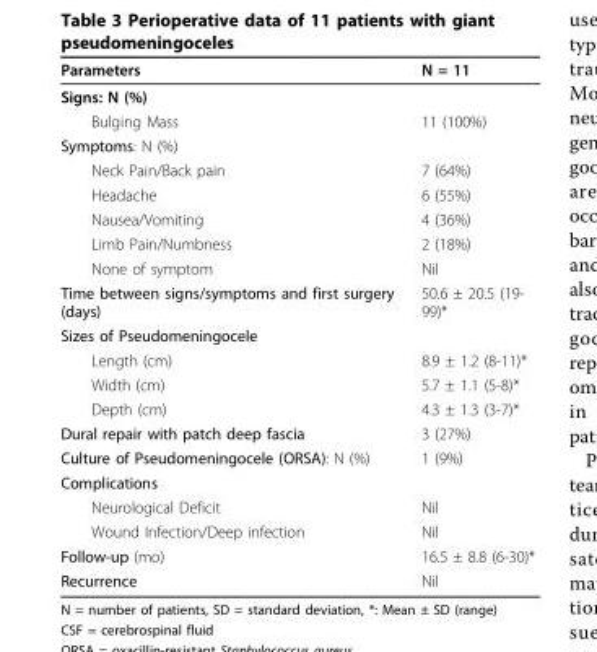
<table><thead><tr><td>Parameters</td><td>N = 11</td></tr></thead><tbody><tr><td colspan="2">Signs: N (%)</td></tr><tr><td>Bulging Mass</td><td>11 (100%)</td></tr><tr><td colspan="2">Symptoms: N (%)</td></tr><tr><td>Neck Pain/Back pain</td><td>7 (64%)</td></tr><tr><td>Headache</td><td>6 (55%)</td></tr><tr><td>Nausea/Vomiting</td><td>4 (36%)</td></tr><tr><td>Limb Pain/Numbness</td><td>2 (18%)</td></tr><tr><td>None of symptom</td><td>Nil</td></tr><tr><td>Time between signs/symptoms and first surgery (days)</td><td>50.6 ± 20.5 (19- 99)*</td></tr><tr><td colspan="2">Sizes of Pseudomeningocele</td></tr><tr><td>Length (cm)</td><td>8.9 ± 1.2 (8-11)*</td></tr><tr><td>Width (cm)</td><td>5.7 ± 1.1 (5-8)*</td></tr><tr><td>Depth (cm)</td><td>4.3 ± 1.3 (3-7)*</td></tr><tr><td>Dural repair with patch deep fascia</td><td>3 (27%)</td></tr><tr><td>Culture of Pseudomeningocele (ORSA): N (%)</td><td>1 (9%)</td></tr><tr><td colspan="2">Complications</td></tr><tr><td>Neurological Deficit</td><td>Nil</td></tr><tr><td>Wound Infection/Deep infection</td><td>Nil</td></tr><tr><td>Follow-up (mo)</td><td>16.5 ± 8.8 (6-30)*</td></tr><tr><td>Recurrence</td><td>Nil</td></tr></tbody></table>